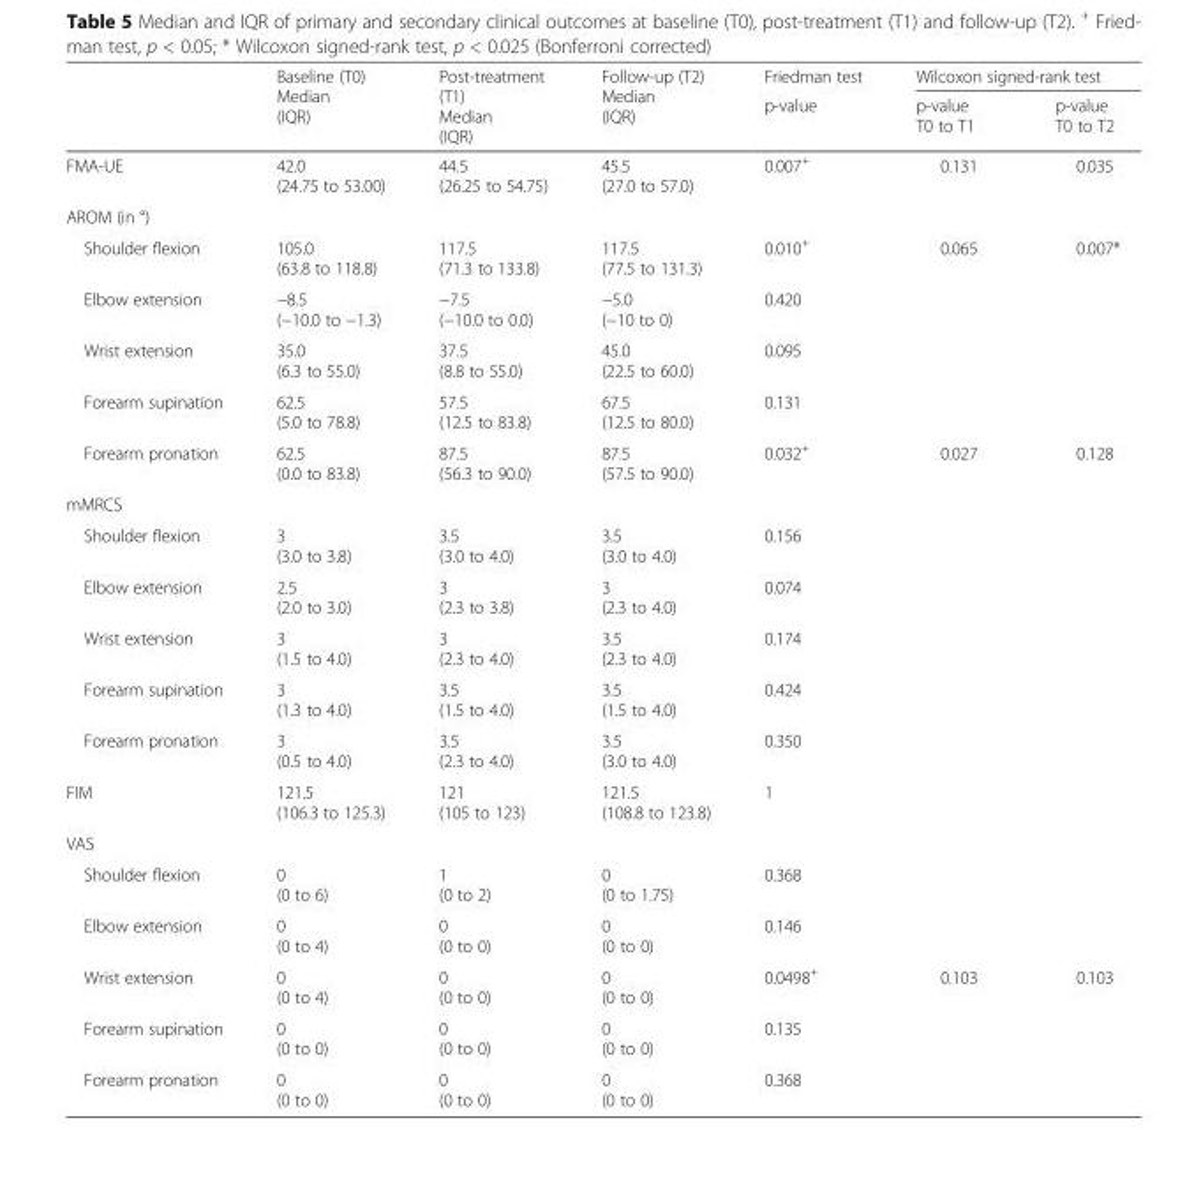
<table><thead><tr><td rowspan="2"></td><td rowspan="2">Baseline (T0) Median (IQR)</td><td rowspan="2">Post-treatment (T1) Median (IQR)</td><td rowspan="2">Follow-up (T2) Median (IQR)</td><td rowspan="2">Friedman test p-value</td><td colspan="2">Wilcoxon signed-rank test</td></tr><tr><td>p-value T0 to T1</td><td>p-value T0 to T2</td></tr></thead><tbody><tr><td>FMA-UE</td><td>42.0 (24.75 to 53.00)</td><td>44.5 (26.25 to 54.75)</td><td>45.5 (27.0 to 57.0)</td><td>0.007<sup>+</sup></td><td>0.131</td><td>0.035</td></tr><tr><td colspan="7">AROM (in °)</td></tr><tr><td>Shoulder flexion</td><td>105.0 (63.8 to 118.8)</td><td>117.5 (71.3 to 133.8)</td><td>117.5 (77.5 to 131.3)</td><td>0.010<sup>+</sup></td><td>0.065</td><td>0.007*</td></tr><tr><td>Elbow extension</td><td>−8.5 (−10.0 to −1.3)</td><td>−7.5 (−10.0 to 0.0)</td><td>−5.0 (−10 to 0)</td><td>0.420</td><td></td><td></td></tr><tr><td>Wrist extension</td><td>35.0 (6.3 to 55.0)</td><td>37.5 (8.8 to 55.0)</td><td>45.0 (22.5 to 60.0)</td><td>0.095</td><td></td><td></td></tr><tr><td>Forearm supination</td><td>62.5 (5.0 to 78.8)</td><td>57.5 (12.5 to 83.8)</td><td>67.5 (12.5 to 80.0)</td><td>0.131</td><td></td><td></td></tr><tr><td>Forearm pronation</td><td>62.5 (0.0 to 83.8)</td><td>87.5 (56.3 to 90.0)</td><td>87.5 (57.5 to 90.0)</td><td>0.032<sup>+</sup></td><td>0.027</td><td>0.128</td></tr><tr><td colspan="7">mMRCS</td></tr><tr><td>Shoulder flexion</td><td>3 (3.0 to 3.8)</td><td>3.5 (3.0 to 4.0)</td><td>3.5 (3.0 to 4.0)</td><td>0.156</td><td></td><td></td></tr><tr><td>Elbow extension</td><td>2.5 (2.0 to 3.0)</td><td>3 (2.3 to 3.8)</td><td>3 (2.3 to 4.0)</td><td>0.074</td><td></td><td></td></tr><tr><td>Wrist extension</td><td>3 (1.5 to 4.0)</td><td>3 (2.3 to 4.0)</td><td>3.5 (2.3 to 4.0)</td><td>0.174</td><td></td><td></td></tr><tr><td>Forearm supination</td><td>3 (1.3 to 4.0)</td><td>3.5 (1.5 to 4.0)</td><td>3.5 (1.5 to 4.0)</td><td>0.424</td><td></td><td></td></tr><tr><td>Forearm pronation</td><td>3 (0.5 to 4.0)</td><td>3.5 (2.3 to 4.0)</td><td>3.5 (3.0 to 4.0)</td><td>0.350</td><td></td><td></td></tr><tr><td>FIM</td><td>121.5 (106.3 to 125.3)</td><td>121 (105 to 123)</td><td>121.5 (108.8 to 123.8)</td><td>1</td><td></td><td></td></tr><tr><td colspan="7">VAS</td></tr><tr><td>Shoulder flexion</td><td>0 (0 to 6)</td><td>1 (0 to 2)</td><td>0 (0 to 1.75)</td><td>0.368</td><td></td><td></td></tr><tr><td>Elbow extension</td><td>0 (0 to 4)</td><td>0 (0 to 0)</td><td>0 (0 to 0)</td><td>0.146</td><td></td><td></td></tr><tr><td>Wrist extension</td><td>0 (0 to 4)</td><td>0 (0 to 0)</td><td>0 (0 to 0)</td><td>0.0498<sup>+</sup></td><td>0.103</td><td>0.103</td></tr><tr><td>Forearm supination</td><td>0 (0 to 0)</td><td>0 (0 to 0)</td><td>0 (0 to 0)</td><td>0.135</td><td></td><td></td></tr><tr><td>Forearm pronation</td><td>0 (0 to 0)</td><td>0 (0 to 0)</td><td>0 (0 to 0)</td><td>0.368</td><td></td><td></td></tr></tbody></table>